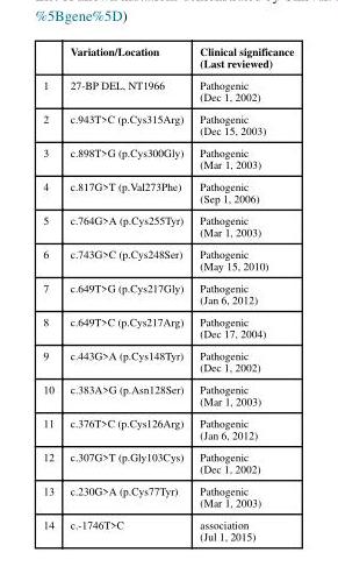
<table><thead><tr><td></td><td>Variation/Location</td><td>Clinical significance (Last reviewed)</td></tr></thead><tbody><tr><td>1</td><td>27-BP DEL, NT1966</td><td>Pathogenic (Dec 1, 2002)</td></tr><tr><td>2</td><td>c.943T&gt;C (p.Cys315Arg)</td><td>Pathogenic (Dec 15, 2003)</td></tr><tr><td>3</td><td>c.898T&gt;G (p.Cys300Gly)</td><td>Pathogenic (Mar 1, 2003)</td></tr><tr><td>4</td><td>c.817G&gt;T (p.Val273Phe)</td><td>Pathogenic (Sep 1, 2006)</td></tr><tr><td>5</td><td>c.764G&gt;A (p.Cys255Tyr)</td><td>Pathogenic (Mar 1, 2003)</td></tr><tr><td>6</td><td>c.743G&gt;C (p.Cys248Ser)</td><td>Pathogenic (May 15, 2010)</td></tr><tr><td>7</td><td>c.649T&gt;G (p.Cys217Gly)</td><td>Pathogenic (Jan 6, 2012)</td></tr><tr><td>8</td><td>c.649T&gt;C (p.Cys217Arg)</td><td>Pathogenic (Dec 17, 2004)</td></tr><tr><td>9</td><td>c.443G&gt;A (p.Cys148Tyr)</td><td>Pathogenic (Dec 1, 2002)</td></tr><tr><td>10</td><td>c.383A&gt;G (p.Asn128Ser)</td><td>Pathogenic (Mar 1, 2003)</td></tr><tr><td>11</td><td>c.376T&gt;C (p.Cys126Arg)</td><td>Pathogenic (Jan 6, 2012)</td></tr><tr><td>12</td><td>c.307G&gt;T (p.Gly103Cys)</td><td>Pathogenic (Dec 1, 2002)</td></tr><tr><td>13</td><td>c.230G&gt;A (p.Cys77Tyr)</td><td>Pathogenic (Mar 1, 2003)</td></tr><tr><td>14</td><td>c.-1746T&gt;C</td><td>association (Jul 1, 2015)</td></tr></tbody></table>